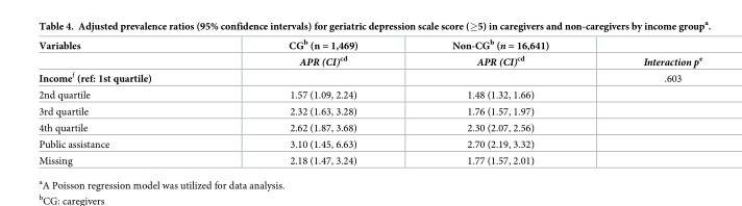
<table><thead><tr><td rowspan="2">Variables</td><td rowspan="2">CG<sup>b</sup> (n = 1,469) APR (CI)<sup>cd</sup></td><td rowspan="2">Non-CG<sup>b</sup> (n = 16,641) APR (CI)<sup>cd</sup></td><td rowspan="2">Interaction p<sup>e</sup></td></tr><tr></tr></thead><tbody><tr><td>Income<sup>f</sup> (ref: 1st quartile)</td><td></td><td></td><td>.603</td></tr><tr><td>2nd quartile</td><td>1.57 (1.09, 2.24)</td><td>1.48 (1.32, 1.66)</td><td></td></tr><tr><td>3rd quartile</td><td>2.32 (1.63, 3.28)</td><td>1.76 (1.57, 1.97)</td><td></td></tr><tr><td>4th quartile</td><td>2.62 (1.87, 3.68)</td><td>2.30 (2.07, 2.56)</td><td></td></tr><tr><td>Public assistance</td><td>3.10 (1.45, 6.63)</td><td>2.70 (2.19, 3.32)</td><td></td></tr><tr><td>Missing</td><td>2.18 (1.47, 3.24)</td><td>1.77 (1.57, 2.01)</td><td></td></tr></tbody></table>